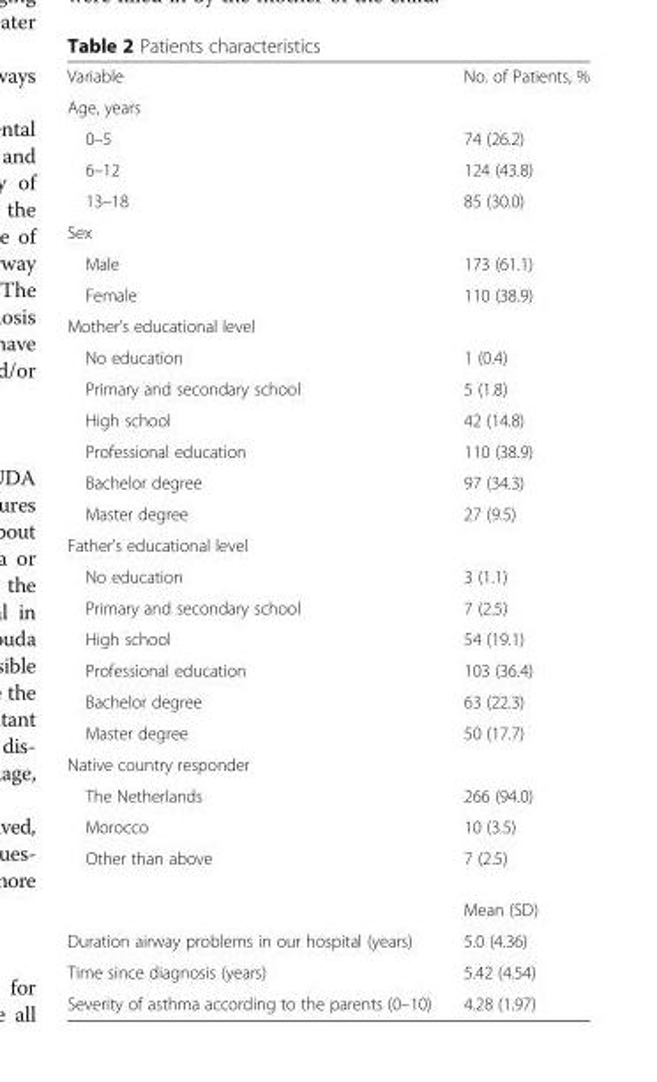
<table><tbody><tr><td>Variable</td><td>No. of Patients, %</td></tr><tr><td colspan="2">Age, years</td></tr><tr><td>0–5</td><td>74 (26.2)</td></tr><tr><td>6–12</td><td>124 (43.8)</td></tr><tr><td>13–18</td><td>85 (30.0)</td></tr><tr><td colspan="2">Sex</td></tr><tr><td>Male</td><td>173 (61.1)</td></tr><tr><td>Female</td><td>110 (38.9)</td></tr><tr><td colspan="2">Mother’s educational level</td></tr><tr><td>No education</td><td>1 (0.4)</td></tr><tr><td>Primary and secondary school</td><td>5 (1.8)</td></tr><tr><td>High school</td><td>42 (14.8)</td></tr><tr><td>Professional education</td><td>110 (38.9)</td></tr><tr><td>Bachelor degree</td><td>97 (34.3)</td></tr><tr><td>Master degree</td><td>27 (9.5)</td></tr><tr><td colspan="2">Father’s educational level</td></tr><tr><td>No education</td><td>3 (1.1)</td></tr><tr><td>Primary and secondary school</td><td>7 (2.5)</td></tr><tr><td>High school</td><td>54 (19.1)</td></tr><tr><td>Professional education</td><td>103 (36.4)</td></tr><tr><td>Bachelor degree</td><td>63 (22.3)</td></tr><tr><td>Master degree</td><td>50 (17.7)</td></tr><tr><td colspan="2">Native country responder</td></tr><tr><td>The Netherlands</td><td>266 (94.0)</td></tr><tr><td>Morocco</td><td>10 (3.5)</td></tr><tr><td rowspan="2">Other than above</td><td>7 (2.5)</td></tr><tr><td>Mean (SD)</td></tr><tr><td>Duration airway problems in our hospital (years)</td><td>5.0 (4.36)</td></tr><tr><td>Time since diagnosis (years)</td><td>5.42 (4.54)</td></tr><tr><td>Severity of asthma according to the parents (0–10)</td><td>4.28 (1.97)</td></tr></tbody></table>